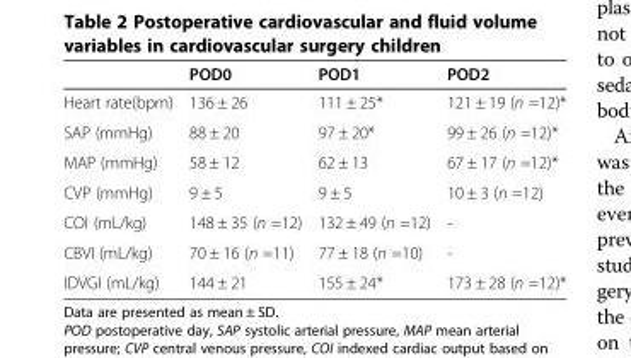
<table><thead><tr><td></td><td>POD0</td><td>POD1</td><td>POD2</td></tr></thead><tbody><tr><td>Heart rate(bpm)</td><td>136 ± 26</td><td>111 ± 25*</td><td>121 ± 19 (n =12)*</td></tr><tr><td>SAP (mmHg)</td><td>88 ± 20</td><td>97 ± 20*</td><td>99 ± 26 (n =12)*</td></tr><tr><td>MAP (mmHg)</td><td>58 ± 12</td><td>62 ± 13</td><td>67 ± 17 (n =12)*</td></tr><tr><td>CVP (mmHg)</td><td>9 ± 5</td><td>9 ± 5</td><td>10 ± 3 (n =12)</td></tr><tr><td>COI (mL/kg)</td><td>148 ± 35 (n =12)</td><td>132 ± 49 (n =12)</td><td>-</td></tr><tr><td>CBVI (mL/kg)</td><td>70 ± 16 (n =11)</td><td>77 ± 18 (n =10)</td><td>-</td></tr><tr><td>IDVGI (mL/kg)</td><td>144 ± 21</td><td>155 ± 24*</td><td>173 ± 28 (n =12)*</td></tr></tbody></table>